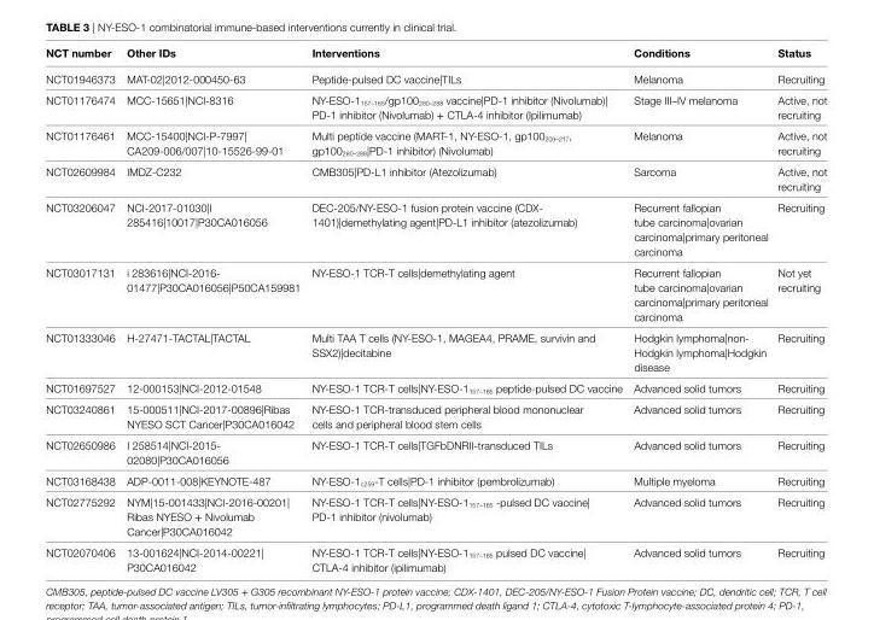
<table><thead><tr><td>NCT number</td><td>Other iDs</td><td>interventions</td><td>Conditions</td><td>Status</td></tr></thead><tbody><tr><td>NCT01946373</td><td>MAT-02|2012-000450-63</td><td>Peptide-pulsed DC vaccine|TILs</td><td>Melanoma</td><td>Recruiting</td></tr><tr><td>NCT01176474</td><td>MCC-15651|NCI-8316</td><td>NY-ESO-1<sub>157–165</sub>/gp100<sub>280–288</sub> vaccine|PD-1 inhibitor (Nivolumab)| PD-1 inhibitor (Nivolumab) + CTLA-4 inhibitor (Ipilimumab)</td><td>Stage III–IV melanoma</td><td>Active, not recruiting</td></tr><tr><td>NCT01176461</td><td>MCC-15400|NCI-P-7997| CA209-006/007|10-15526-99-01</td><td>Multi peptide vaccine (MART-1, NY-ESO-1, gp100<sub>209–217</sub>, gp100<sub>280–288</sub>|PD-1 inhibitor) (Nivolumab)</td><td>Melanoma</td><td>Active, not recruiting</td></tr><tr><td>NCT02609984</td><td>IMDZ-C232</td><td>CMB305|PD-L1 inhibitor (Atezolizumab)</td><td>Sarcoma</td><td>Active, not recruiting</td></tr><tr><td>NCT03206047</td><td>NCI-2017-01030|I 285416|10017|P30CA016056</td><td>DEC-205/NY-ESO-1 fusion protein vaccine (CDX- 1401)|demethylating agent|PD-L1 inhibitor (atezolizumab)</td><td>Recurrent fallopian tube carcinoma|ovarian carcinoma|primary peritoneal carcinoma</td><td>Recruiting</td></tr><tr><td>NCT03017131</td><td>i 283616|NCI-2016- 01477|P30CA016056|P50CA159981</td><td>NY-ESO-1 TCR-T cells|demethylating agent</td><td>Recurrent fallopian tube carcinoma|ovarian carcinoma|primary peritoneal carcinoma</td><td>Not yet recruiting</td></tr><tr><td>NCT01333046</td><td>H-27471-TACTAL|TACTAL</td><td>Multi TAA T cells (NY-ESO-1, MAGEA4, PRAME, survivin and SSX2)|decitabine</td><td>Hodgkin lymphoma|non- Hodgkin lymphoma|Hodgkin disease</td><td>Recruiting</td></tr><tr><td>NCT01697527</td><td>12-000153|NCI-2012-01548</td><td>NY-ESO-1 TCR-T cells|NY-ESO-1<sub>157–165</sub> peptide-pulsed DC vaccine</td><td>Advanced solid tumors</td><td>Recruiting</td></tr><tr><td>NCT03240861</td><td>15-000511|NCI-2017-00896|Ribas NYESO SCT Cancer|P30CA016042</td><td>NY-ESO-1 TCR-transduced peripheral blood mononuclear cells and peripheral blood stem cells</td><td>Advanced solid tumors</td><td>Recruiting</td></tr><tr><td>NCT02650986</td><td>I 258514|NCI-2015- 02080|P30CA016056</td><td>NY-ESO-1 TCR-T cells|TGFbDNRII-transduced TILs</td><td>Advanced solid tumors</td><td>Recruiting</td></tr><tr><td>NCT03168438</td><td>ADP-0011-008|KEYNOTE-487</td><td>NY-ESO-1<sub>c259</sub>-T cells|PD-1 inhibitor (pembrolizumab)</td><td>Multiple myeloma</td><td>Recruiting</td></tr><tr><td>NCT02775292</td><td>NYM|15-001433|NCI-2016-00201| Ribas NYESO + Nivolumab Cancer|P30CA016042</td><td>NY-ESO-1 TCR-T cells|NY-ESO-1<sub>157–165</sub> -pulsed DC vaccine| PD-1 inhibitor (nivolumab)</td><td>Advanced solid tumors</td><td>Recruiting</td></tr><tr><td>NCT02070406</td><td>13-001624|NCI-2014-00221| P30CA016042</td><td>NY-ESO-1 TCR-T cells|NY-ESO-1<sub>157–165</sub> pulsed DC vaccine| CTLA-4 inhibitor (ipilimumab)</td><td>Advanced solid tumors</td><td>Recruiting</td></tr></tbody></table>